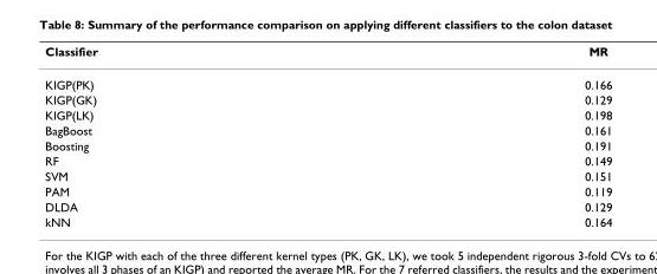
<table><thead><tr><td>Classifier</td><td>MR</td></tr></thead><tbody><tr><td>KIGP(PK)</td><td>0.166</td></tr><tr><td>KIGP(GK)</td><td>0.129</td></tr><tr><td>KIGP(LK)</td><td>0.198</td></tr><tr><td>BagBoost</td><td>0.161</td></tr><tr><td>Boosting</td><td>0.191</td></tr><tr><td>RF</td><td>0.149</td></tr><tr><td>SVM</td><td>0.151</td></tr><tr><td>PAM</td><td>0.119</td></tr><tr><td>DLDA</td><td>0.129</td></tr><tr><td>kNN</td><td>0.164</td></tr></tbody></table>